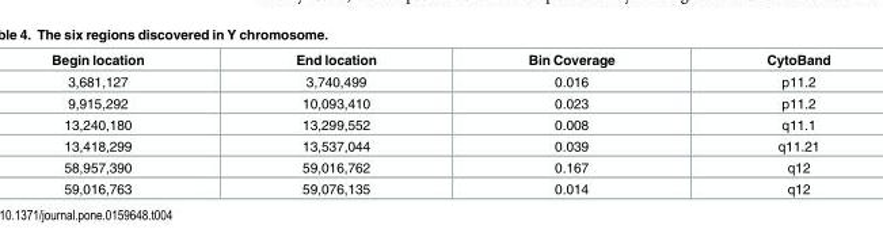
<table><thead><tr><td>Begin location</td><td>End location</td><td>Bin Coverage</td><td>CytoBand</td></tr></thead><tbody><tr><td>3,681,127</td><td>3,740,499</td><td>0.016</td><td>p11.2</td></tr><tr><td>9,915,292</td><td>10,093,410</td><td>0.023</td><td>p11.2</td></tr><tr><td>13,240,180</td><td>13,299,552</td><td>0.008</td><td>q11.1</td></tr><tr><td>13,418,299</td><td>13,537,044</td><td>0.039</td><td>q11.21</td></tr><tr><td>58,957,390</td><td>59,016,762</td><td>0.167</td><td>q12</td></tr><tr><td>59,016,763</td><td>59,076,135</td><td>0.014</td><td>q12</td></tr></tbody></table>